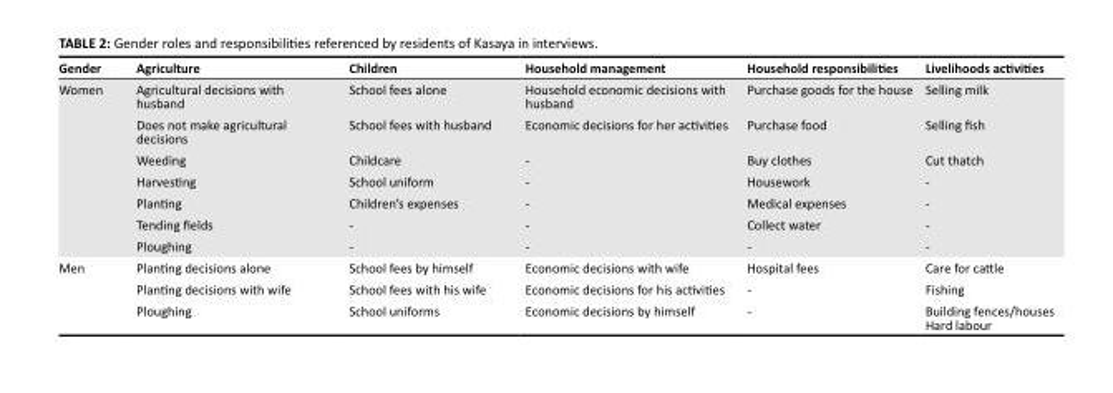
<table><thead><tr><td>Gender</td><td>Agriculture</td><td>Children</td><td>Household management</td><td>Household responsibilities</td><td>Livelihoods activities</td></tr></thead><tbody><tr><td rowspan="7">Women</td><td>Agricultural decisions with husband</td><td>School fees alone</td><td>Household economic decisions with husband</td><td>Purchase goods for the house</td><td>Selling milk</td></tr><tr><td>Does not make agricultural decisions</td><td>School fees with husband</td><td>Economic decisions for her activities</td><td>Purchase food</td><td>Selling fish</td></tr><tr><td>Weeding</td><td>Childcare</td><td>-</td><td>Buy clothes</td><td>Cut thatch</td></tr><tr><td>Harvesting</td><td>School uniform</td><td>-</td><td>Housework</td><td>-</td></tr><tr><td>Planting</td><td>Children’s expenses</td><td>-</td><td>Medical expenses</td><td>-</td></tr><tr><td>Tending fields</td><td>-</td><td>-</td><td>Collect water</td><td>-</td></tr><tr><td>Ploughing</td><td>-</td><td>-</td><td>-</td><td>-</td></tr><tr><td rowspan="3">Men</td><td>Planting decisions alone</td><td>School fees by himself</td><td>Economic decisions with wife</td><td>Hospital fees</td><td>Care for cattle</td></tr><tr><td>Planting decisions with wife</td><td>School fees with his wife</td><td>Economic decisions for his activities</td><td>-</td><td>Fishing</td></tr><tr><td>Ploughing</td><td>School uniforms</td><td>Economic decisions by himself</td><td>-</td><td>Building fences/houses Hard labour</td></tr></tbody></table>